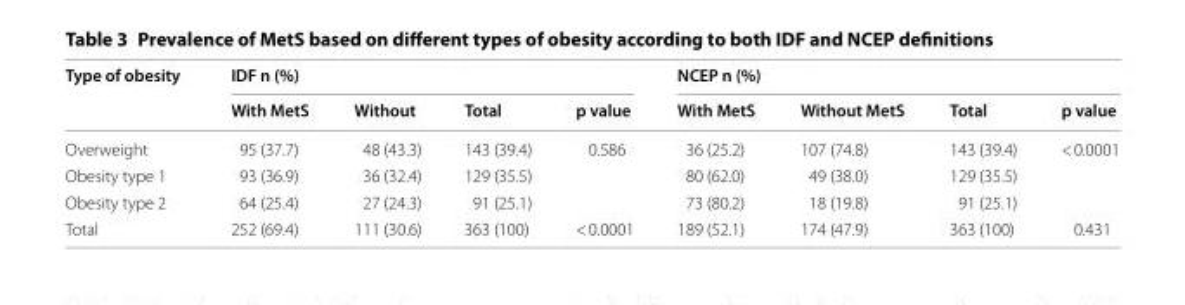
<table><thead><tr><td rowspan="2">Type of obesity</td><td colspan="4">IDF n (%)</td><td colspan="4">NCEP n (%)</td></tr><tr><td>With MetS</td><td>Without</td><td>Total</td><td>p value</td><td>With MetS</td><td>Without MetS</td><td>Total</td><td>p value</td></tr></thead><tbody><tr><td>Overweight</td><td>95 (37.7)</td><td>48 (43.3)</td><td>143 (39.4)</td><td rowspan="3">0.586</td><td>36 (25.2)</td><td>107 (74.8)</td><td>143 (39.4)</td><td rowspan="3">&lt; 0.0001</td></tr><tr><td>Obesity type 1</td><td>93 (36.9)</td><td>36 (32.4)</td><td>129 (35.5)</td><td>80 (62.0)</td><td>49 (38.0)</td><td>129 (35.5)</td></tr><tr><td>Obesity type 2</td><td>64 (25.4)</td><td>27 (24.3)</td><td>91 (25.1)</td><td>73 (80.2)</td><td>18 (19.8)</td><td>91 (25.1)</td></tr><tr><td>Total</td><td>252 (69.4)</td><td>111 (30.6)</td><td>363 (100)</td><td>&lt; 0.0001</td><td>189 (52.1)</td><td>174 (47.9)</td><td>363 (100)</td><td>0.431</td></tr></tbody></table>